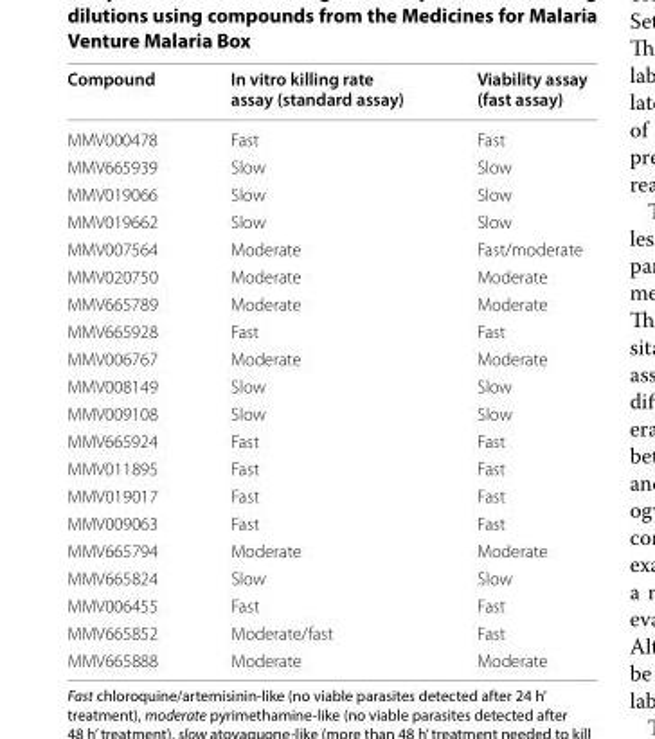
<table><thead><tr><td>Compound</td><td>In vitro killing rate assay (standard assay)</td><td>Viability assay (fast assay)</td></tr></thead><tbody><tr><td>MMV000478</td><td>Fast</td><td>Fast</td></tr><tr><td>MMV665939</td><td>Slow</td><td>Slow</td></tr><tr><td>MMV019066</td><td>Slow</td><td>Slow</td></tr><tr><td>MMV019662</td><td>Slow</td><td>Slow</td></tr><tr><td>MMV007564</td><td>Moderate</td><td>Fast/moderate</td></tr><tr><td>MMV020750</td><td>Moderate</td><td>Moderate</td></tr><tr><td>MMV665789</td><td>Moderate</td><td>Moderate</td></tr><tr><td>MMV665928</td><td>Fast</td><td>Fast</td></tr><tr><td>MMV006767</td><td>Moderate</td><td>Moderate</td></tr><tr><td>MMV008149</td><td>Slow</td><td>Slow</td></tr><tr><td>MMV009108</td><td>Slow</td><td>Slow</td></tr><tr><td>MMV665924</td><td>Fast</td><td>Fast</td></tr><tr><td>MMV011895</td><td>Fast</td><td>Fast</td></tr><tr><td>MMV019017</td><td>Fast</td><td>Fast</td></tr><tr><td>MMV009063</td><td>Fast</td><td>Fast</td></tr><tr><td>MMV665794</td><td>Moderate</td><td>Moderate</td></tr><tr><td>MMV665824</td><td>Slow</td><td>Slow</td></tr><tr><td>MMV006455</td><td>Fast</td><td>Fast</td></tr><tr><td>MMV665852</td><td>Moderate/fast</td><td>Fast</td></tr><tr><td>MMV665888</td><td>Moderate</td><td>Moderate</td></tr></tbody></table>